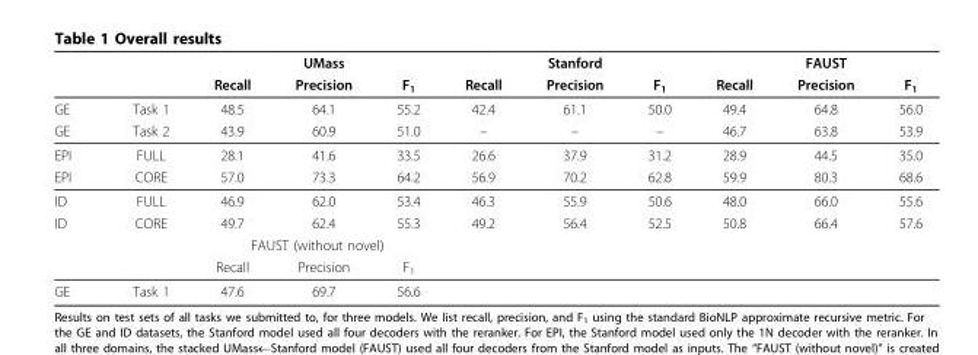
<table><thead><tr><td rowspan="2"></td><td rowspan="2"></td><td rowspan="2">Recall</td><td rowspan="2">UMass Precision</td><td rowspan="2">F<sub>1</sub></td><td rowspan="2">Recall</td><td rowspan="2">Stanford Precision</td><td rowspan="2">F<sub>1</sub></td><td rowspan="2">Recall</td><td rowspan="2">FAUST Precision</td><td rowspan="2">F<sub>1</sub></td></tr><tr></tr></thead><tbody><tr><td>GE</td><td>Task 1</td><td>48.5</td><td>64.1</td><td>55.2</td><td>42.4</td><td>61.1</td><td>50.0</td><td>49.4</td><td>64.8</td><td>56.0</td></tr><tr><td>GE</td><td>Task 2</td><td>43.9</td><td>60.9</td><td>51.0</td><td>–</td><td>–</td><td>–</td><td>46.7</td><td>63.8</td><td>53.9</td></tr><tr><td>EPI</td><td>FULL</td><td>28.1</td><td>41.6</td><td>33.5</td><td>26.6</td><td>37.9</td><td>31.2</td><td>28.9</td><td>44.5</td><td>35.0</td></tr><tr><td>EPI</td><td>CORE</td><td>57.0</td><td>73.3</td><td>64.2</td><td>56.9</td><td>70.2</td><td>62.8</td><td>59.9</td><td>80.3</td><td>68.6</td></tr><tr><td>ID</td><td>FULL</td><td>46.9</td><td>62.0</td><td>53.4</td><td>46.3</td><td>55.9</td><td>50.6</td><td>48.0</td><td>66.0</td><td>55.6</td></tr><tr><td rowspan="3">ID</td><td>CORE</td><td>49.7</td><td>62.4</td><td>55.3</td><td>49.2</td><td>56.4</td><td>52.5</td><td>50.8</td><td>66.4</td><td>57.6</td></tr><tr><td></td><td colspan="3">FAUST (without novel)</td><td></td><td></td><td></td><td></td><td></td><td></td></tr><tr><td></td><td>Recall</td><td>Precision</td><td>F<sub>1</sub></td><td></td><td></td><td></td><td></td><td></td><td></td></tr><tr><td>GE</td><td>Task 1</td><td>47.6</td><td>69.7</td><td>56.6</td><td></td><td></td><td></td><td></td><td></td><td></td></tr></tbody></table>